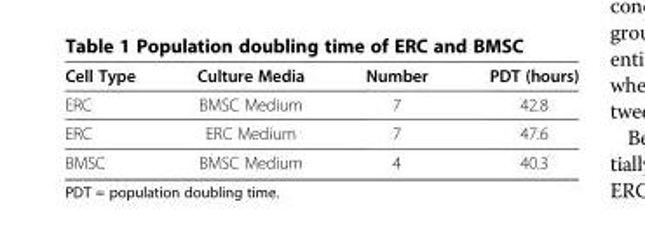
<table><thead><tr><td>Cell Type</td><td>Culture Media</td><td>Number</td><td>PDT (hours)</td></tr></thead><tbody><tr><td>ERC</td><td>BMSC Medium</td><td>7</td><td>42.8</td></tr><tr><td>ERC</td><td>ERC Medium</td><td>7</td><td>47.6</td></tr><tr><td>BMSC</td><td>BMSC Medium</td><td>4</td><td>40.3</td></tr></tbody></table>